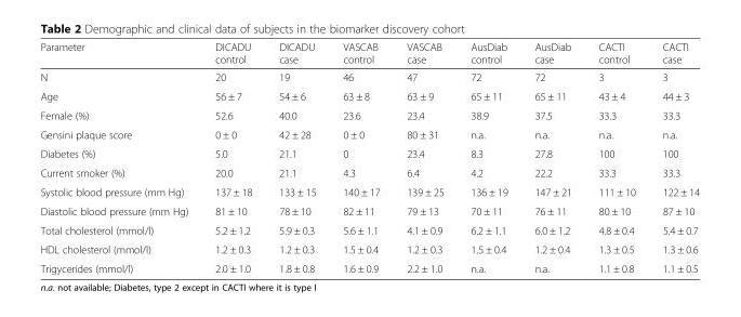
<table><thead><tr><td>Parameter</td><td>DICADU control</td><td>DICADU case</td><td>VASCAB control</td><td>VASCAB case</td><td>AusDiab control</td><td>AusDiab case</td><td>CACTI control</td><td>CACTI case</td></tr></thead><tbody><tr><td>N</td><td>20</td><td>19</td><td>46</td><td>47</td><td>72</td><td>72</td><td>3</td><td>3</td></tr><tr><td>Age</td><td>56 ± 7</td><td>54 ± 6</td><td>63 ± 8</td><td>63 ± 9</td><td>65 ± 11</td><td>65 ± 11</td><td>43 ± 4</td><td>44 ± 3</td></tr><tr><td>Female (%)</td><td>52.6</td><td>40.0</td><td>23.6</td><td>23.4</td><td>38.9</td><td>37.5</td><td>33.3</td><td>33.3</td></tr><tr><td>Gensini plaque score</td><td>0 ± 0</td><td>42 ± 28</td><td>0 ± 0</td><td>80 ± 31</td><td>n.a.</td><td>n.a.</td><td>n.a.</td><td>n.a.</td></tr><tr><td>Diabetes (%)</td><td>5.0</td><td>21.1</td><td>0</td><td>23.4</td><td>8.3</td><td>27.8</td><td>100</td><td>100</td></tr><tr><td>Current smoker (%)</td><td>20.0</td><td>21.1</td><td>4.3</td><td>6.4</td><td>4.2</td><td>22.2</td><td>33.3</td><td>33.3</td></tr><tr><td>Systolic blood pressure (mm Hg)</td><td>137 ± 18</td><td>133 ± 15</td><td>140 ± 17</td><td>139 ± 25</td><td>136 ± 19</td><td>147 ± 21</td><td>111 ± 10</td><td>122 ± 14</td></tr><tr><td>Diastolic blood pressure (mm Hg)</td><td>81 ± 10</td><td>78 ± 10</td><td>82 ± 11</td><td>79 ± 13</td><td>70 ± 11</td><td>76 ± 11</td><td>80 ± 10</td><td>87 ± 10</td></tr><tr><td>Total cholesterol (mmol/l)</td><td>5.2 ± 1.2</td><td>5.9 ± 0.3</td><td>5.6 ± 1.1</td><td>4.1 ± 0.9</td><td>6.2 ± 1.1</td><td>6.0 ± 1.2</td><td>4.8 ± 0.4</td><td>5.4 ± 0.7</td></tr><tr><td>HDL cholesterol (mmol/l)</td><td>1.2 ± 0.3</td><td>1.2 ± 0.3</td><td>1.5 ± 0.4</td><td>1.2 ± 0.3</td><td>1.5 ± 0.4</td><td>1.2 ± 0.4</td><td>1.3 ± 0.5</td><td>1.3 ± 0.6</td></tr><tr><td>Trigycerides (mmol/l)</td><td>2.0 ± 1.0</td><td>1.8 ± 0.8</td><td>1.6 ± 0.9</td><td>2.2 ± 1.0</td><td>n.a.</td><td>n.a.</td><td>1.1 ± 0.8</td><td>1.1 ± 0.5</td></tr></tbody></table>